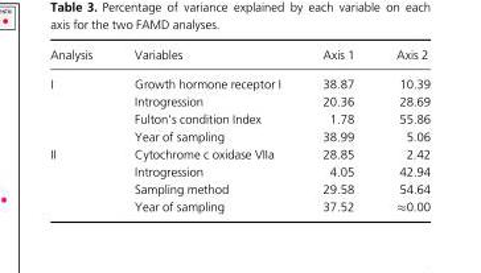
<table><thead><tr><td>Analysis</td><td>Variables</td><td>Axis 1</td><td>Axis 2</td></tr></thead><tbody><tr><td rowspan="4">I</td><td>Growth hormone receptor I</td><td>38.87</td><td>10.39</td></tr><tr><td>Introgression</td><td>20.36</td><td>28.69</td></tr><tr><td>Fulton’s condition Index</td><td>1.78</td><td>55.86</td></tr><tr><td>Year of sampling</td><td>38.99</td><td>5.06</td></tr><tr><td rowspan="4">II</td><td>Cytochrome c oxidase VIIa</td><td>28.85</td><td>2.42</td></tr><tr><td>Introgression</td><td>4.05</td><td>42.94</td></tr><tr><td>Sampling method</td><td>29.58</td><td>54.64</td></tr><tr><td>Year of sampling</td><td>37.52</td><td>≈0.00</td></tr></tbody></table>